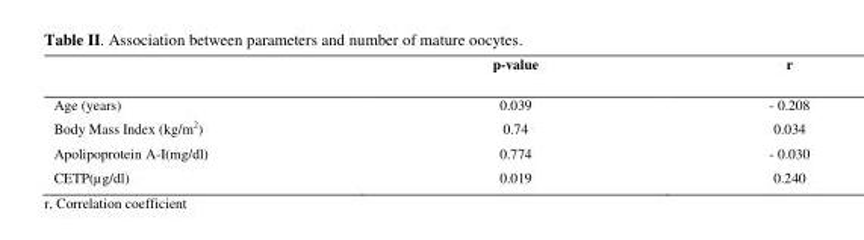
<table><thead><tr><td></td><td>p-value</td><td>r</td></tr></thead><tbody><tr><td>Age (years)</td><td>0.039</td><td>- 0.208</td></tr><tr><td>Body Mass Index (kg/m<sup>2</sup>)</td><td>0.74</td><td>0.034</td></tr><tr><td>Apolipoprotein A-I(mg/dl)</td><td>0.774</td><td>- 0.030</td></tr><tr><td>CETP(µg/dl)</td><td>0.019</td><td>0.240</td></tr></tbody></table>